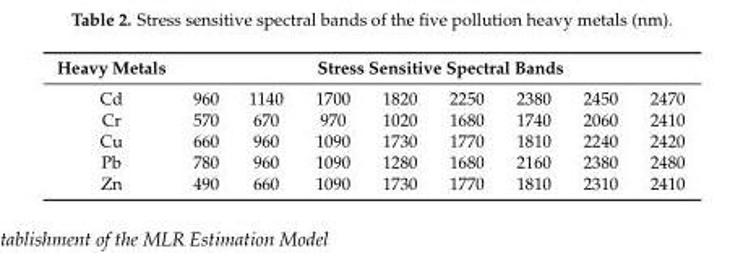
<table><thead><tr><td rowspan="2">Heavy Metals Cd</td><td colspan="8">Stress Sensitive Spectral Bands</td></tr><tr><td>960</td><td>1140</td><td>1700</td><td>1820</td><td>2250</td><td>2380</td><td>2450</td><td>2470</td></tr></thead><tbody><tr><td>Cr</td><td>570</td><td>670</td><td>970</td><td>1020</td><td>1680</td><td>1740</td><td>2060</td><td>2410</td></tr><tr><td>Cu</td><td>660</td><td>960</td><td>1090</td><td>1730</td><td>1770</td><td>1810</td><td>2240</td><td>2420</td></tr><tr><td>Pb</td><td>780</td><td>960</td><td>1090</td><td>1280</td><td>1680</td><td>2160</td><td>2380</td><td>2480</td></tr><tr><td>Zn</td><td>490</td><td>660</td><td>1090</td><td>1730</td><td>1770</td><td>1810</td><td>2310</td><td>2410</td></tr></tbody></table>